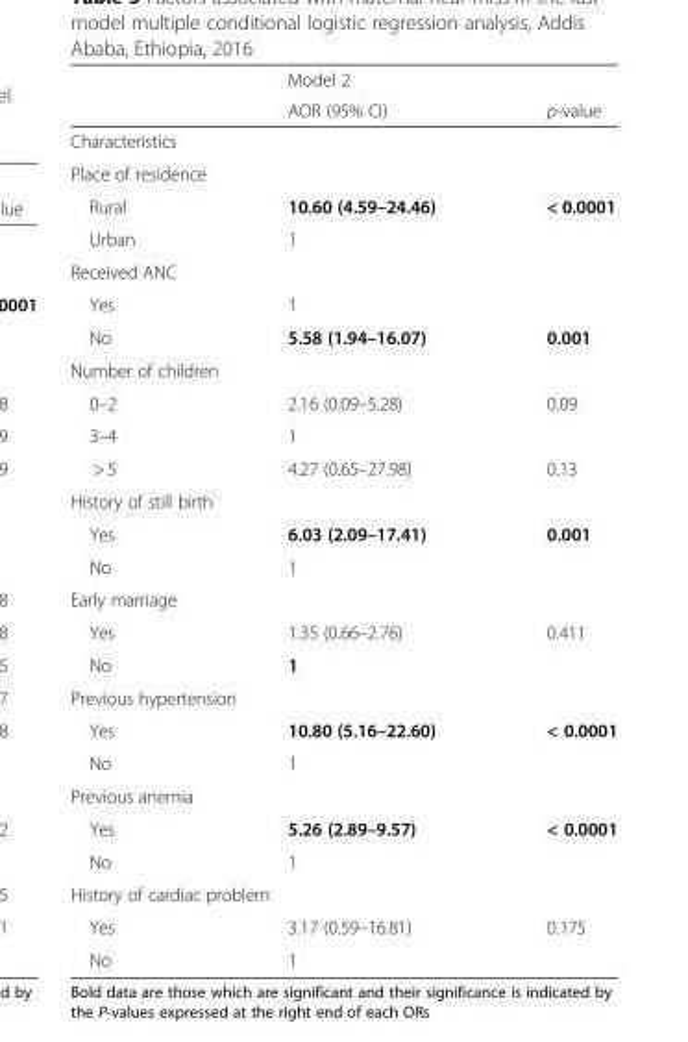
<table><thead><tr><td rowspan="2"></td><td rowspan="2">Model 2 AOR (95% CI)</td><td rowspan="2">p-value</td></tr><tr></tr></thead><tbody><tr><td colspan="3">Characteristics</td></tr><tr><td colspan="3">Place of residence</td></tr><tr><td>Rural</td><td>10.60 (4.59–24.46)</td><td>&lt; 0.0001</td></tr><tr><td>Urban</td><td>1</td><td></td></tr><tr><td colspan="3">Received ANC</td></tr><tr><td>Yes</td><td>1</td><td></td></tr><tr><td>No</td><td>5.58 (1.94–16.07)</td><td>0.001</td></tr><tr><td colspan="3">Number of children</td></tr><tr><td>0–2</td><td>2.16 (0.09–5.28)</td><td>0.09</td></tr><tr><td>3–4</td><td>1</td><td></td></tr><tr><td>&gt; 5</td><td>4.27 (0.65–27.98)</td><td>0.13</td></tr><tr><td colspan="3">History of still birth</td></tr><tr><td>Yes</td><td>6.03 (2.09–17.41)</td><td>0.001</td></tr><tr><td>No</td><td>1</td><td></td></tr><tr><td colspan="3">Early marriage</td></tr><tr><td>Yes</td><td>1.35 (0.66–2.76)</td><td>0.411</td></tr><tr><td>No</td><td>1</td><td></td></tr><tr><td colspan="3">Previous hypertension</td></tr><tr><td>Yes</td><td>10.80 (5.16–22.60)</td><td>&lt; 0.0001</td></tr><tr><td>No</td><td>1</td><td></td></tr><tr><td colspan="3">Previous anemia</td></tr><tr><td>Yes</td><td>5.26 (2.89–9.57)</td><td>&lt; 0.0001</td></tr><tr><td>No</td><td>1</td><td></td></tr><tr><td colspan="3">History of cardiac problem</td></tr><tr><td>Yes</td><td>3.17 (0.59–16.81)</td><td>0.175</td></tr><tr><td>No</td><td>1</td><td></td></tr></tbody></table>